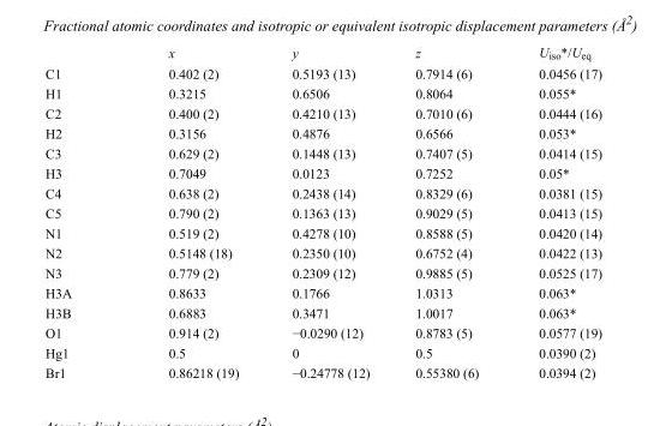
<table><thead><tr><td></td><td>x</td><td>y</td><td>z</td><td>U<sub>iso</sub>*/U<sub>eq</sub></td></tr></thead><tbody><tr><td>C1</td><td>0.402 (2)</td><td>0.5193 (13)</td><td>0.7914 (6)</td><td>0.0456 (17)</td></tr><tr><td>H1</td><td>0.3215</td><td>0.6506</td><td>0.8064</td><td>0.055*</td></tr><tr><td>C2</td><td>0.400 (2)</td><td>0.4210 (13)</td><td>0.7010 (6)</td><td>0.0444 (16)</td></tr><tr><td>H2</td><td>0.3156</td><td>0.4876</td><td>0.6566</td><td>0.053*</td></tr><tr><td>C3</td><td>0.629 (2)</td><td>0.1448 (13)</td><td>0.7407 (5)</td><td>0.0414 (15)</td></tr><tr><td>H3</td><td>0.7049</td><td>0.0123</td><td>0.7252</td><td>0.05*</td></tr><tr><td>C4</td><td>0.638 (2)</td><td>0.2438 (14)</td><td>0.8329 (6)</td><td>0.0381 (15)</td></tr><tr><td>C5</td><td>0.790 (2)</td><td>0.1363 (13)</td><td>0.9029 (5)</td><td>0.0413 (15)</td></tr><tr><td>N1</td><td>0.519 (2)</td><td>0.4278 (10)</td><td>0.8588 (5)</td><td>0.0420 (14)</td></tr><tr><td>N2</td><td>0.5148 (18)</td><td>0.2350 (10)</td><td>0.6752 (4)</td><td>0.0422 (13)</td></tr><tr><td>N3</td><td>0.779 (2)</td><td>0.2309 (12)</td><td>0.9885 (5)</td><td>0.0525 (17)</td></tr><tr><td>H3A</td><td>0.8633</td><td>0.1766</td><td>1.0313</td><td>0.063*</td></tr><tr><td>H3B</td><td>0.6883</td><td>0.3471</td><td>1.0017</td><td>0.063*</td></tr><tr><td>O1</td><td>0.914 (2)</td><td>−0.0290 (12)</td><td>0.8783 (5)</td><td>0.0577 (19)</td></tr><tr><td>Hg1</td><td>0.5</td><td>0</td><td>0.5</td><td>0.0390 (2)</td></tr><tr><td>Br1</td><td>0.86218 (19)</td><td>−0.24778 (12)</td><td>0.55380 (6)</td><td>0.0394 (2)</td></tr></tbody></table>